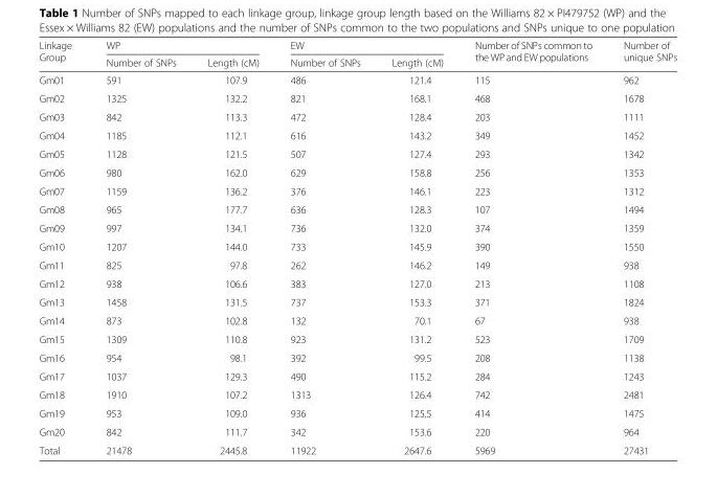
<table><thead><tr><td rowspan="2">Linkage Group</td><td colspan="2">WP</td><td colspan="2">EW</td><td rowspan="2">Number of SNPs common to the WP and EW populations</td><td rowspan="2">Number of unique SNPs</td></tr><tr><td>Number of SNPs</td><td>Length (cM)</td><td>Number of SNPs</td><td>Length (cM)</td></tr></thead><tbody><tr><td>Gm01</td><td>591</td><td>107.9</td><td>486</td><td>121.4</td><td>115</td><td>962</td></tr><tr><td>Gm02</td><td>1325</td><td>132.2</td><td>821</td><td>168.1</td><td>468</td><td>1678</td></tr><tr><td>Gm03</td><td>842</td><td>113.3</td><td>472</td><td>128.4</td><td>203</td><td>1111</td></tr><tr><td>Gm04</td><td>1185</td><td>112.1</td><td>616</td><td>143.2</td><td>349</td><td>1452</td></tr><tr><td>Gm05</td><td>1128</td><td>121.5</td><td>507</td><td>127.4</td><td>293</td><td>1342</td></tr><tr><td>Gm06</td><td>980</td><td>162.0</td><td>629</td><td>158.8</td><td>256</td><td>1353</td></tr><tr><td>Gm07</td><td>1159</td><td>136.2</td><td>376</td><td>146.1</td><td>223</td><td>1312</td></tr><tr><td>Gm08</td><td>965</td><td>177.7</td><td>636</td><td>128.3</td><td>107</td><td>1494</td></tr><tr><td>Gm09</td><td>997</td><td>134.1</td><td>736</td><td>132.0</td><td>374</td><td>1359</td></tr><tr><td>Gm10</td><td>1207</td><td>144.0</td><td>733</td><td>145.9</td><td>390</td><td>1550</td></tr><tr><td>Gm11</td><td>825</td><td>97.8</td><td>262</td><td>146.2</td><td>149</td><td>938</td></tr><tr><td>Gm12</td><td>938</td><td>106.6</td><td>383</td><td>127.0</td><td>213</td><td>1108</td></tr><tr><td>Gm13</td><td>1458</td><td>131.5</td><td>737</td><td>153.3</td><td>371</td><td>1824</td></tr><tr><td>Gm14</td><td>873</td><td>102.8</td><td>132</td><td>70.1</td><td>67</td><td>938</td></tr><tr><td>Gm15</td><td>1309</td><td>110.8</td><td>923</td><td>131.2</td><td>523</td><td>1709</td></tr><tr><td>Gm16</td><td>954</td><td>98.1</td><td>392</td><td>99.5</td><td>208</td><td>1138</td></tr><tr><td>Gm17</td><td>1037</td><td>129.3</td><td>490</td><td>115.2</td><td>284</td><td>1243</td></tr><tr><td>Gm18</td><td>1910</td><td>107.2</td><td>1313</td><td>126.4</td><td>742</td><td>2481</td></tr><tr><td>Gm19</td><td>953</td><td>109.0</td><td>936</td><td>125.5</td><td>414</td><td>1475</td></tr><tr><td>Gm20</td><td>842</td><td>111.7</td><td>342</td><td>153.6</td><td>220</td><td>964</td></tr><tr><td>Total</td><td>21478</td><td>2445.8</td><td>11922</td><td>2647.6</td><td>5969</td><td>27431</td></tr></tbody></table>